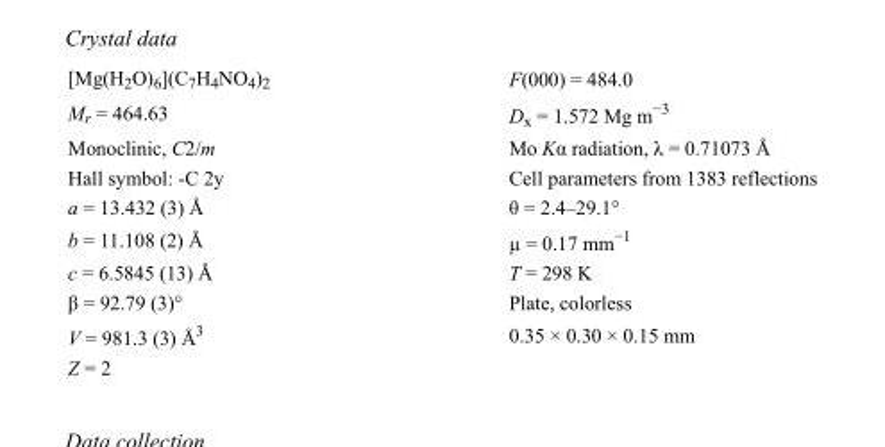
<table><tbody><tr><td>[Mg(H<sub>2</sub>O)<sub>6</sub>](C<sub>7</sub>H<sub>4</sub>NO<sub>4</sub>)<sub>2</sub></td><td>F(000) = 484.0</td></tr><tr><td>M<sub>r</sub> = 464.63</td><td>D<sub>x</sub> = 1.572 Mg m<sup>−3</sup></td></tr><tr><td>Monoclinic, C2/m</td><td>Mo Kα radiation, λ = 0.71073 Å</td></tr><tr><td>Hall symbol: -C 2y</td><td>Cell parameters from 1383 reflections</td></tr><tr><td>a = 13.432 (3) Å</td><td>θ = 2.4–29.1°</td></tr><tr><td>b = 11.108 (2) Å</td><td>µ = 0.17 mm<sup>−1</sup></td></tr><tr><td>c = 6.5845 (13) Å</td><td>T = 298 K</td></tr><tr><td>β = 92.79 (3)°</td><td>Plate, colorless</td></tr><tr><td>V = 981.3 (3) Å<sup>3</sup></td><td>0.35 × 0.30 × 0.15 mm</td></tr><tr><td>Z = 2</td><td></td></tr></tbody></table>